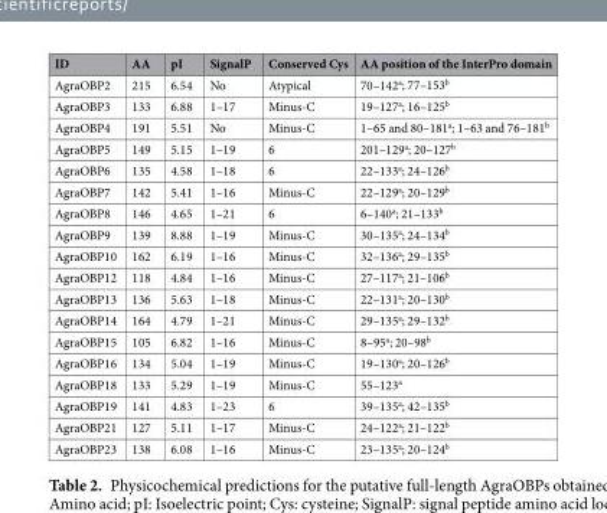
<table><thead><tr><td>ID</td><td>AA</td><td>pI</td><td>SignalP</td><td>Conserved Cys</td><td>AA position of the InterPro domain</td></tr></thead><tbody><tr><td>AgraOBP2</td><td>215</td><td>6.54</td><td>No</td><td>Atypical</td><td>70–142<sup>a</sup>; 77–153<sup>b</sup></td></tr><tr><td>AgraOBP3</td><td>133</td><td>6.88</td><td>1–17</td><td>Minus-C</td><td>19–127<sup>a</sup>; 16–125<sup>b</sup></td></tr><tr><td>AgraOBP4</td><td>191</td><td>5.51</td><td>No</td><td>Minus-C</td><td>1–65 and 80–181<sup>a</sup>; 1–63 and 76–181<sup>b</sup></td></tr><tr><td>AgraOBP5</td><td>149</td><td>5.15</td><td>1–19</td><td>6</td><td>201–129<sup>a</sup>; 20–127<sup>b</sup></td></tr><tr><td>AgraOBP6</td><td>135</td><td>4.58</td><td>1–18</td><td>6</td><td>22–133<sup>a</sup>; 24–126<sup>b</sup></td></tr><tr><td>AgraOBP7</td><td>142</td><td>5.41</td><td>1–16</td><td>Minus-C</td><td>22–129<sup>a</sup>; 20–129<sup>b</sup></td></tr><tr><td>AgraOBP8</td><td>146</td><td>4.65</td><td>1–21</td><td>6</td><td>6–140<sup>a</sup>; 21–133<sup>b</sup></td></tr><tr><td>AgraOBP9</td><td>139</td><td>8.88</td><td>1–19</td><td>Minus-C</td><td>30–135<sup>a</sup>; 24–134<sup>b</sup></td></tr><tr><td>AgraOBP10</td><td>162</td><td>6.19</td><td>1–16</td><td>Minus-C</td><td>32–136<sup>a</sup>; 29–135<sup>b</sup></td></tr><tr><td>AgraOBP12</td><td>118</td><td>4.84</td><td>1–16</td><td>Minus-C</td><td>27–117<sup>a</sup>; 21–106<sup>b</sup></td></tr><tr><td>AgraOBP13</td><td>136</td><td>5.63</td><td>1–18</td><td>Minus-C</td><td>22–131<sup>a</sup>; 20–130<sup>b</sup></td></tr><tr><td>AgraOBP14</td><td>164</td><td>4.79</td><td>1–21</td><td>Minus-C</td><td>29–135<sup>a</sup>; 29–132<sup>b</sup></td></tr><tr><td>AgraOBP15</td><td>105</td><td>6.82</td><td>1–16</td><td>Minus-C</td><td>8–95<sup>a</sup>; 20–98<sup>b</sup></td></tr><tr><td>AgraOBP16</td><td>134</td><td>5.04</td><td>1–19</td><td>Minus-C</td><td>19–130<sup>a</sup>; 20–126<sup>b</sup></td></tr><tr><td>AgraOBP18</td><td>133</td><td>5.29</td><td>1–19</td><td>Minus-C</td><td>55–123<sup>a</sup></td></tr><tr><td>AgraOBP19</td><td>141</td><td>4.83</td><td>1–23</td><td>6</td><td>39–135<sup>a</sup>; 42–135<sup>b</sup></td></tr><tr><td>AgraOBP21</td><td>127</td><td>5.11</td><td>1–17</td><td>Minus-C</td><td>24–122<sup>a</sup>; 21–122<sup>b</sup></td></tr><tr><td>AgraOBP23</td><td>138</td><td>6.08</td><td>1–16</td><td>Minus-C</td><td>23–135<sup>a</sup>; 20–124<sup>b</sup></td></tr></tbody></table>